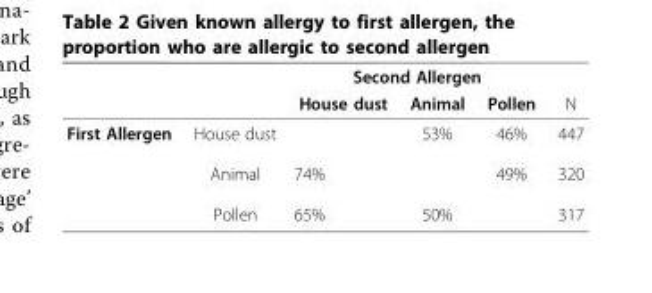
<table><thead><tr><td rowspan="2"></td><td rowspan="2"></td><td colspan="3">Second Allergen</td><td rowspan="2">N</td></tr><tr><td>House dust</td><td>Animal</td><td>Pollen</td></tr></thead><tbody><tr><td>First Allergen</td><td>House dust Animal Pollen</td><td>74% 65%</td><td>53% 50%</td><td>46% 49%</td><td>447 320 317</td></tr></tbody></table>